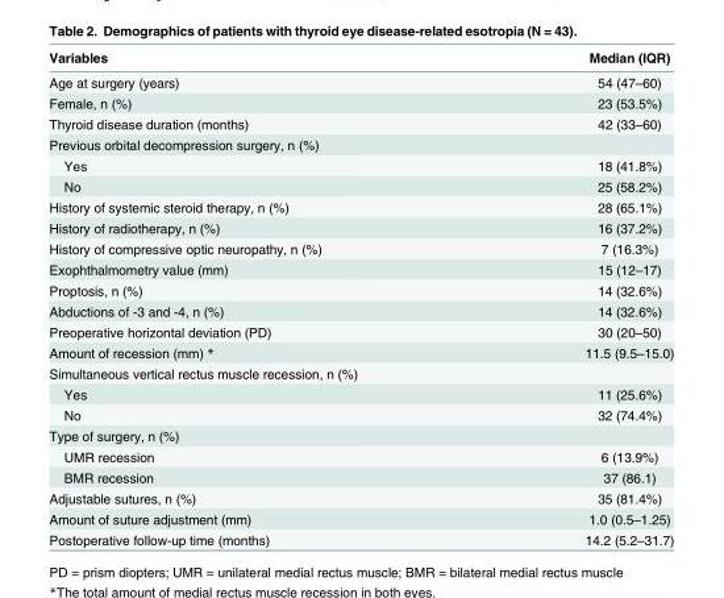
<table><thead><tr><td>Variables</td><td>Median (IQR)</td></tr></thead><tbody><tr><td>Age at surgery (years)</td><td>54 (47–60)</td></tr><tr><td>Female, n (%)</td><td>23 (53.5%)</td></tr><tr><td>Thyroid disease duration (months)</td><td>42 (33–60)</td></tr><tr><td colspan="2">Previous orbital decompression surgery, n (%)</td></tr><tr><td>Yes</td><td>18 (41.8%)</td></tr><tr><td>No</td><td>25 (58.2%)</td></tr><tr><td>History of systemic steroid therapy, n (%)</td><td>28 (65.1%)</td></tr><tr><td>History of radiotherapy, n (%)</td><td>16 (37.2%)</td></tr><tr><td>History of compressive optic neuropathy, n (%)</td><td>7 (16.3%)</td></tr><tr><td>Exophthalmometry value (mm)</td><td>15 (12–17)</td></tr><tr><td>Proptosis, n (%)</td><td>14 (32.6%)</td></tr><tr><td>Abductions of -3 and -4, n (%)</td><td>14 (32.6%)</td></tr><tr><td>Preoperative horizontal deviation (PD)</td><td>30 (20–50)</td></tr><tr><td>Amount of recession (mm) *</td><td>11.5 (9.5–15.0)</td></tr><tr><td colspan="2">Simultaneous vertical rectus muscle recession, n (%)</td></tr><tr><td>Yes</td><td>11 (25.6%)</td></tr><tr><td>No</td><td>32 (74.4%)</td></tr><tr><td colspan="2">Type of surgery, n (%)</td></tr><tr><td>UMR recession</td><td>6 (13.9%)</td></tr><tr><td>BMR recession</td><td>37 (86.1)</td></tr><tr><td>Adjustable sutures, n (%)</td><td>35 (81.4%)</td></tr><tr><td>Amount of suture adjustment (mm)</td><td>1.0 (0.5–1.25)</td></tr><tr><td>Postoperative follow-up time (months)</td><td>14.2 (5.2–31.7)</td></tr></tbody></table>